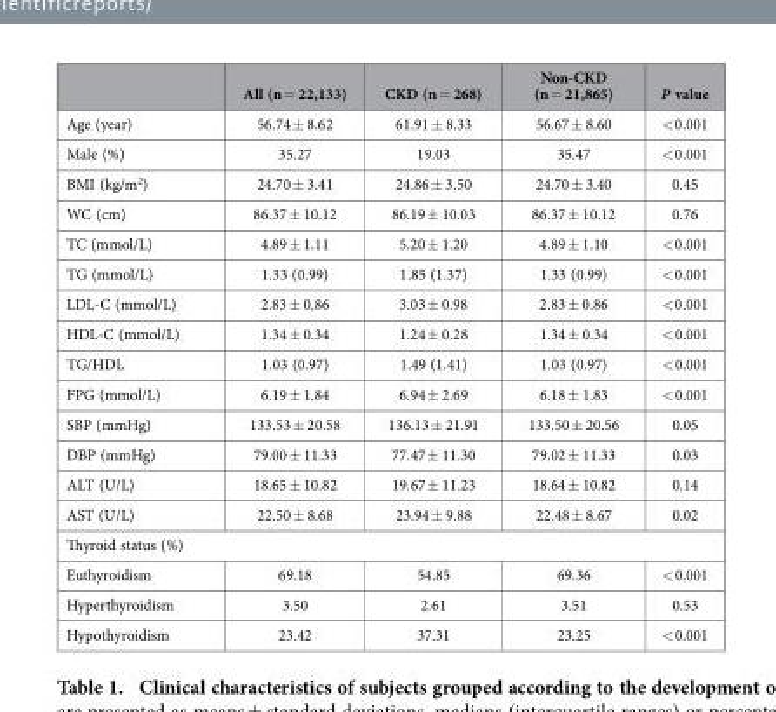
<table><thead><tr><td></td><td>All (n = 22,133)</td><td>CKD (n = 268)</td><td>Non-CKD (n = 21,865)</td><td>P value</td></tr></thead><tbody><tr><td>Age (year)</td><td>56.74 ± 8.62</td><td>61.91 ± 8.33</td><td>56.67 ± 8.60</td><td>&lt; 0.001</td></tr><tr><td>Male (%)</td><td>35.27</td><td>19.03</td><td>35.47</td><td>&lt; 0.001</td></tr><tr><td>BMI (kg/m<sup>2</sup>)</td><td>24.70 ± 3.41</td><td>24.86 ± 3.50</td><td>24.70 ± 3.40</td><td>0.45</td></tr><tr><td>WC (cm)</td><td>86.37 ± 10.12</td><td>86.19 ± 10.03</td><td>86.37 ± 10.12</td><td>0.76</td></tr><tr><td>TC (mmol/L)</td><td>4.89 ± 1.11</td><td>5.20 ± 1.20</td><td>4.89 ± 1.10</td><td>&lt; 0.001</td></tr><tr><td>TG (mmol/L)</td><td>1.33 (0.99)</td><td>1.85 (1.37)</td><td>1.33 (0.99)</td><td>&lt; 0.001</td></tr><tr><td>LDL-C (mmol/L)</td><td>2.83 ± 0.86</td><td>3.03 ± 0.98</td><td>2.83 ± 0.86</td><td>&lt; 0.001</td></tr><tr><td>HDL-C (mmol/L)</td><td>1.34 ± 0.34</td><td>1.24 ± 0.28</td><td>1.34 ± 0.34</td><td>&lt; 0.001</td></tr><tr><td>TG/HDL</td><td>1.03 (0.97)</td><td>1.49 (1.41)</td><td>1.03 (0.97)</td><td>&lt; 0.001</td></tr><tr><td>FPG (mmol/L)</td><td>6.19 ± 1.84</td><td>6.94 ± 2.69</td><td>6.18 ± 1.83</td><td>&lt; 0.001</td></tr><tr><td>SBP (mmHg)</td><td>133.53 ± 20.58</td><td>136.13 ± 21.91</td><td>133.50 ± 20.56</td><td>0.05</td></tr><tr><td>DBP (mmHg)</td><td>79.00 ± 11.33</td><td>77.47 ± 11.30</td><td>79.02 ± 11.33</td><td>0.03</td></tr><tr><td>ALT (U/L)</td><td>18.65 ± 10.82</td><td>19.67 ± 11.23</td><td>18.64 ± 10.82</td><td>0.14</td></tr><tr><td>AST (U/L)</td><td>22.50 ± 8.68</td><td>23.94 ± 9.88</td><td>22.48 ± 8.67</td><td>0.02</td></tr><tr><td colspan="5">Thyroid status (%)</td></tr><tr><td>Euthyroidism</td><td>69.18</td><td>54.85</td><td>69.36</td><td>&lt; 0.001</td></tr><tr><td>Hyperthyroidism</td><td>3.50</td><td>2.61</td><td>3.51</td><td>0.53</td></tr><tr><td>Hypothyroidism</td><td>23.42</td><td>37.31</td><td>23.25</td><td>&lt; 0.001</td></tr></tbody></table>